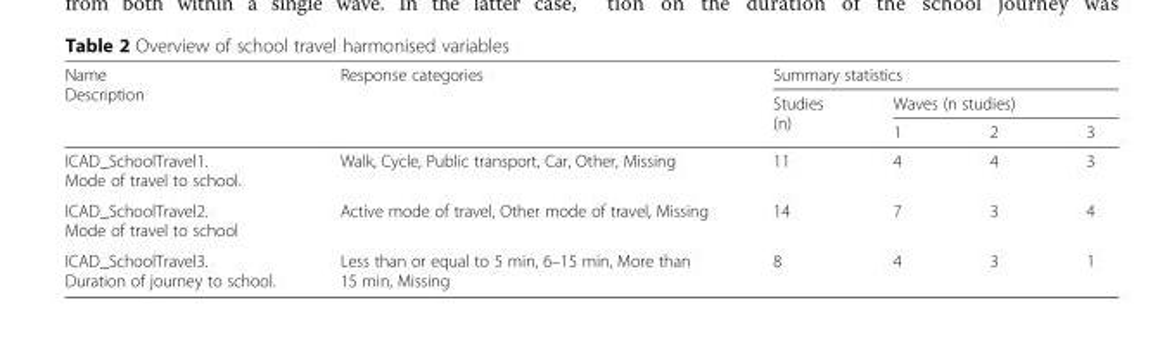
<table><thead><tr><td rowspan="3">Name Description</td><td rowspan="3">Response categories</td><td colspan="4">Summary statistics</td></tr><tr><td rowspan="2">Studies (n)</td><td colspan="3">Waves (n studies)</td></tr><tr><td>1</td><td>2</td><td>3</td></tr></thead><tbody><tr><td>ICAD_SchoolTravel1. Mode of travel to school.</td><td>Walk, Cycle, Public transport, Car, Other, Missing</td><td>11</td><td>4</td><td>4</td><td>3</td></tr><tr><td>ICAD_SchoolTravel2. Mode of travel to school</td><td>Active mode of travel, Other mode of travel, Missing</td><td>14</td><td>7</td><td>3</td><td>4</td></tr><tr><td>ICAD_SchoolTravel3. Duration of journey to school.</td><td>Less than or equal to 5 min, 6–15 min, More than 15 min, Missing</td><td>8</td><td>4</td><td>3</td><td>1</td></tr></tbody></table>